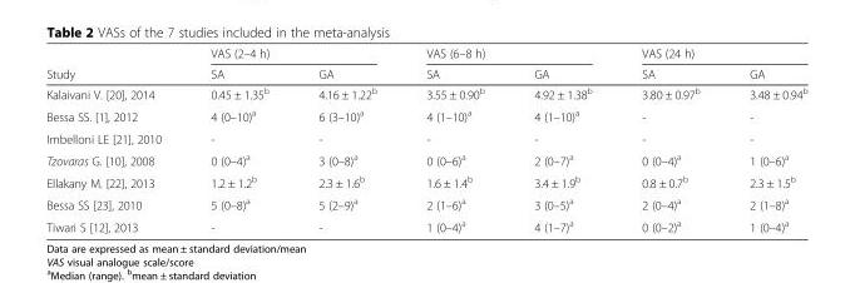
<table><thead><tr><td rowspan="2">Study</td><td colspan="2">VAS (2–4 h)</td><td colspan="2">VAS (6–8 h)</td><td colspan="2">VAS (24 h)</td></tr><tr><td>SA</td><td>GA</td><td>SA</td><td>GA</td><td>SA</td><td>GA</td></tr></thead><tbody><tr><td>Kalaivani V. [20], 2014</td><td>0.45 ± 1.35<sup>b</sup></td><td>4.16 ± 1.22<sup>b</sup></td><td>3.55 ± 0.90<sup>b</sup></td><td>4.92 ± 1.38<sup>b</sup></td><td>3.80 ± 0.97<sup>b</sup></td><td>3.48 ± 0.94<sup>b</sup></td></tr><tr><td>Bessa SS. [1], 2012</td><td>4 (0–10)<sup>a</sup></td><td>6 (3–10)<sup>a</sup></td><td>4 (1–10)<sup>a</sup></td><td>4 (1–10)<sup>a</sup></td><td>-</td><td>-</td></tr><tr><td>Imbelloni LE [21], 2010</td><td>-</td><td>-</td><td>-</td><td>-</td><td>-</td><td>-</td></tr><tr><td>Tzovaras G. [10], 2008</td><td>0 (0–4)<sup>a</sup></td><td>3 (0–8)<sup>a</sup></td><td>0 (0–6)<sup>a</sup></td><td>2 (0–7)<sup>a</sup></td><td>0 (0–4)<sup>a</sup></td><td>1 (0–6)<sup>a</sup></td></tr><tr><td>Ellakany M. [22], 2013</td><td>1.2 ± 1.2<sup>b</sup></td><td>2.3 ± 1.6<sup>b</sup></td><td>1.6 ± 1.4<sup>b</sup></td><td>3.4 ± 1.9<sup>b</sup></td><td>0.8 ± 0.7<sup>b</sup></td><td>2.3 ± 1.5<sup>b</sup></td></tr><tr><td>Bessa SS [23], 2010</td><td>5 (0–8)<sup>a</sup></td><td>5 (2–9)<sup>a</sup></td><td>2 (1–6)<sup>a</sup></td><td>3 (0–5)<sup>a</sup></td><td>2 (0–4)<sup>a</sup></td><td>2 (1–8)<sup>a</sup></td></tr><tr><td>Tiwari S [12], 2013</td><td>-</td><td>-</td><td>1 (0–4)<sup>a</sup></td><td>4 (1–7)<sup>a</sup></td><td>0 (0–2)<sup>a</sup></td><td>1 (0–4)<sup>a</sup></td></tr></tbody></table>